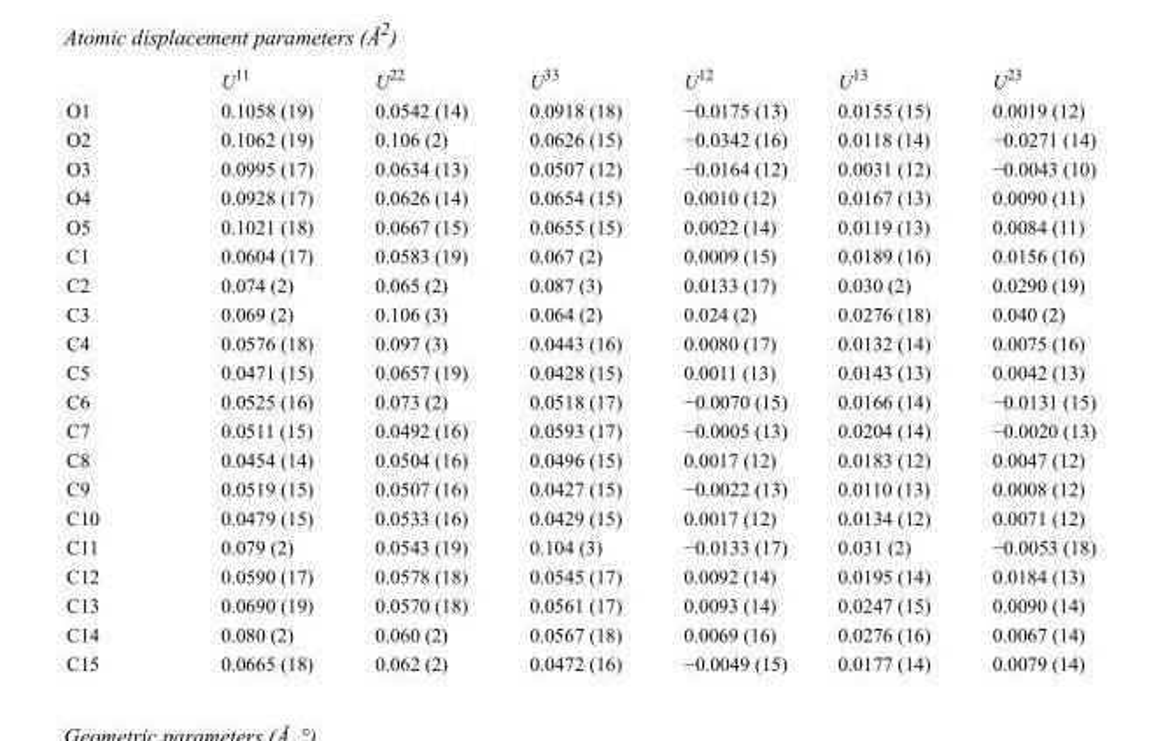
<table><thead><tr><td></td><td>U<sup>11</sup></td><td>U<sup>22</sup></td><td>U<sup>33</sup></td><td>U<sup>12</sup></td><td>U<sup>13</sup></td><td>U<sup>23</sup></td></tr></thead><tbody><tr><td>O1</td><td>0.1058 (19)</td><td>0.0542 (14)</td><td>0.0918 (18)</td><td>−0.0175 (13)</td><td>0.0155 (15)</td><td>0.0019 (12)</td></tr><tr><td>O2</td><td>0.1062 (19)</td><td>0.106 (2)</td><td>0.0626 (15)</td><td>−0.0342 (16)</td><td>0.0118 (14)</td><td>−0.0271 (14)</td></tr><tr><td>O3</td><td>0.0995 (17)</td><td>0.0634 (13)</td><td>0.0507 (12)</td><td>−0.0164 (12)</td><td>0.0031 (12)</td><td>−0.0043 (10)</td></tr><tr><td>O4</td><td>0.0928 (17)</td><td>0.0626 (14)</td><td>0.0654 (15)</td><td>0.0010 (12)</td><td>0.0167 (13)</td><td>0.0090 (11)</td></tr><tr><td>O5</td><td>0.1021 (18)</td><td>0.0667 (15)</td><td>0.0655 (15)</td><td>0.0022 (14)</td><td>0.0119 (13)</td><td>0.0084 (11)</td></tr><tr><td>C1</td><td>0.0604 (17)</td><td>0.0583 (19)</td><td>0.067 (2)</td><td>0.0009 (15)</td><td>0.0189 (16)</td><td>0.0156 (16)</td></tr><tr><td>C2</td><td>0.074 (2)</td><td>0.065 (2)</td><td>0.087 (3)</td><td>0.0133 (17)</td><td>0.030 (2)</td><td>0.0290 (19)</td></tr><tr><td>C3</td><td>0.069 (2)</td><td>0.106 (3)</td><td>0.064 (2)</td><td>0.024 (2)</td><td>0.0276 (18)</td><td>0.040 (2)</td></tr><tr><td>C4</td><td>0.0576 (18)</td><td>0.097 (3)</td><td>0.0443 (16)</td><td>0.0080 (17)</td><td>0.0132 (14)</td><td>0.0075 (16)</td></tr><tr><td>C5</td><td>0.0471 (15)</td><td>0.0657 (19)</td><td>0.0428 (15)</td><td>0.0011 (13)</td><td>0.0143 (13)</td><td>0.0042 (13)</td></tr><tr><td>C6</td><td>0.0525 (16)</td><td>0.073 (2)</td><td>0.0518 (17)</td><td>−0.0070 (15)</td><td>0.0166 (14)</td><td>−0.0131 (15)</td></tr><tr><td>C7</td><td>0.0511 (15)</td><td>0.0492 (16)</td><td>0.0593 (17)</td><td>−0.0005 (13)</td><td>0.0204 (14)</td><td>−0.0020 (13)</td></tr><tr><td>C8</td><td>0.0454 (14)</td><td>0.0504 (16)</td><td>0.0496 (15)</td><td>0.0017 (12)</td><td>0.0183 (12)</td><td>0.0047 (12)</td></tr><tr><td>C9</td><td>0.0519 (15)</td><td>0.0507 (16)</td><td>0.0427 (15)</td><td>−0.0022 (13)</td><td>0.0110 (13)</td><td>0.0008 (12)</td></tr><tr><td>C10</td><td>0.0479 (15)</td><td>0.0533 (16)</td><td>0.0429 (15)</td><td>0.0017 (12)</td><td>0.0134 (12)</td><td>0.0071 (12)</td></tr><tr><td>C11</td><td>0.079 (2)</td><td>0.0543 (19)</td><td>0.104 (3)</td><td>−0.0133 (17)</td><td>0.031 (2)</td><td>−0.0053 (18)</td></tr><tr><td>C12</td><td>0.0590 (17)</td><td>0.0578 (18)</td><td>0.0545 (17)</td><td>0.0092 (14)</td><td>0.0195 (14)</td><td>0.0184 (13)</td></tr><tr><td>C13</td><td>0.0690 (19)</td><td>0.0570 (18)</td><td>0.0561 (17)</td><td>0.0093 (14)</td><td>0.0247 (15)</td><td>0.0090 (14)</td></tr><tr><td>C14</td><td>0.080 (2)</td><td>0.060 (2)</td><td>0.0567 (18)</td><td>0.0069 (16)</td><td>0.0276 (16)</td><td>0.0067 (14)</td></tr><tr><td>C15</td><td>0.0665 (18)</td><td>0.062 (2)</td><td>0.0472 (16)</td><td>−0.0049 (15)</td><td>0.0177 (14)</td><td>0.0079 (14)</td></tr></tbody></table>